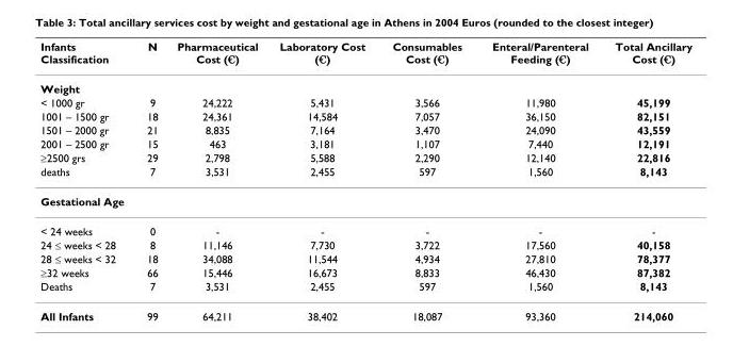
<table><thead><tr><td>Infants Classification</td><td>N</td><td>Pharmaceutical Cost (€)</td><td>Laboratory Cost (€)</td><td>Consumables Cost (€)</td><td>Enteral/Parenteral Feeding (€)</td><td>Total Ancillary Cost (€)</td></tr></thead><tbody><tr><td colspan="7">Weight</td></tr><tr><td>&lt; 1000 gr</td><td>9</td><td>24,222</td><td>5,431</td><td>3,566</td><td>11,980</td><td>45,199</td></tr><tr><td>1001 – 1500 gr</td><td>18</td><td>24,361</td><td>14,584</td><td>7,057</td><td>36,150</td><td>82,151</td></tr><tr><td>1501 – 2000 gr</td><td>21</td><td>8,835</td><td>7,164</td><td>3,470</td><td>24,090</td><td>43,559</td></tr><tr><td>2001 – 2500 gr</td><td>15</td><td>463</td><td>3,181</td><td>1,107</td><td>7,440</td><td>12,191</td></tr><tr><td>≥2500 grs</td><td>29</td><td>2,798</td><td>5,588</td><td>2,290</td><td>12,140</td><td>22,816</td></tr><tr><td>deaths</td><td>7</td><td>3,531</td><td>2,455</td><td>597</td><td>1,560</td><td>8,143</td></tr><tr><td colspan="7">Gestational Age</td></tr><tr><td>&lt; 24 weeks</td><td>0</td><td>-</td><td>-</td><td>-</td><td>-</td><td>-</td></tr><tr><td>24 ≤ weeks &lt; 28</td><td>8</td><td>11,146</td><td>7,730</td><td>3,722</td><td>17,560</td><td>40,158</td></tr><tr><td>28 ≤ weeks &lt; 32</td><td>18</td><td>34,088</td><td>11,544</td><td>4,934</td><td>27,810</td><td>78,377</td></tr><tr><td>≥32 weeks</td><td>66</td><td>15,446</td><td>16,673</td><td>8,833</td><td>46,430</td><td>87,382</td></tr><tr><td>Deaths</td><td>7</td><td>3,531</td><td>2,455</td><td>597</td><td>1,560</td><td>8,143</td></tr><tr><td>All Infants</td><td>99</td><td>64,211</td><td>38,402</td><td>18,087</td><td>93,360</td><td>214,060</td></tr></tbody></table>